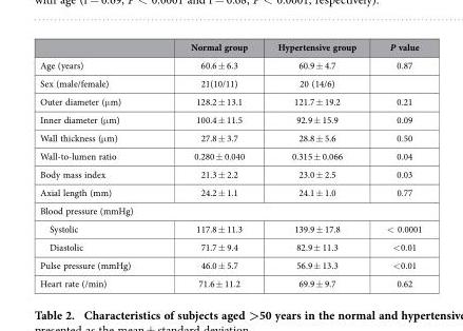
<table><thead><tr><td></td><td>Normal group</td><td>Hypertensive group</td><td>P value</td></tr></thead><tbody><tr><td>Age (years)</td><td>60.6 ± 6.3</td><td>60.9 ± 4.7</td><td>0.87</td></tr><tr><td>Sex (male/female)</td><td>21(10/11)</td><td>20 (14/6)</td><td></td></tr><tr><td>Outer diameter (μ m)</td><td>128.2 ± 13.1</td><td>121.7 ± 19.2</td><td>0.21</td></tr><tr><td>Inner diameter (μ m)</td><td>100.4 ± 11.5</td><td>92.9 ± 15.9</td><td>0.09</td></tr><tr><td>Wall thickness (μ m)</td><td>27.8 ± 3.7</td><td>28.8 ± 5.6</td><td>0.50</td></tr><tr><td>Wall-to-lumen ratio</td><td>0.280 ± 0.040</td><td>0.315 ± 0.066</td><td>0.04</td></tr><tr><td>Body mass index</td><td>21.3 ± 2.2</td><td>23.0 ± 2.5</td><td>0.03</td></tr><tr><td>Axial length (mm)</td><td>24.2 ± 1.1</td><td>24.1 ± 1.0</td><td>0.77</td></tr><tr><td colspan="4">Blood pressure (mmHg)</td></tr><tr><td>Systolic</td><td>117.8 ± 11.3</td><td>139.9 ± 17.8</td><td>&lt; 0.0001</td></tr><tr><td>Diastolic</td><td>71.7 ± 9.4</td><td>82.9 ± 11.3</td><td>&lt; 0.01</td></tr><tr><td>Pulse pressure (mmHg)</td><td>46.0 ± 5.7</td><td>56.9 ± 13.3</td><td>&lt; 0.01</td></tr><tr><td>Heart rate (/min)</td><td>71.6 ± 11.2</td><td>69.9 ± 9.7</td><td>0.62</td></tr></tbody></table>